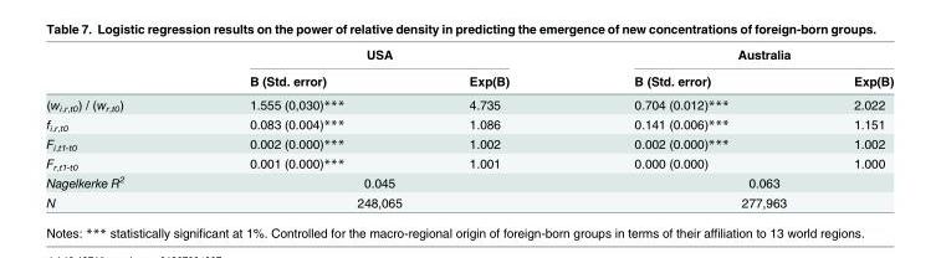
<table><thead><tr><td rowspan="2"></td><td colspan="2">USA</td><td colspan="2">Australia</td></tr><tr><td>B (Std. error)</td><td>Exp(B)</td><td>B (Std. error)</td><td>Exp(B)</td></tr></thead><tbody><tr><td>(w<sub>i,r,t0</sub>) / (w<sub>r,t0</sub>)</td><td>1.555 (0,030)***</td><td>4.735</td><td>0.704 (0.012)***</td><td>2.022</td></tr><tr><td>f<sub>i,r,t0</sub></td><td>0.083 (0.004)***</td><td>1.086</td><td>0.141 (0.006)***</td><td>1.151</td></tr><tr><td>F<sub>i,t1-t0</sub></td><td>0.002 (0.000)***</td><td>1.002</td><td>0.002 (0.000)***</td><td>1.002</td></tr><tr><td>F<sub>r,t1-t0</sub></td><td>0.001 (0.000)***</td><td>1.001</td><td>0.000 (0.000)</td><td>1.000</td></tr><tr><td>Nagelkerke R<sup>2</sup></td><td colspan="2">0.045</td><td colspan="2">0.063</td></tr><tr><td>N</td><td colspan="2">248,065</td><td colspan="2">277,963</td></tr></tbody></table>